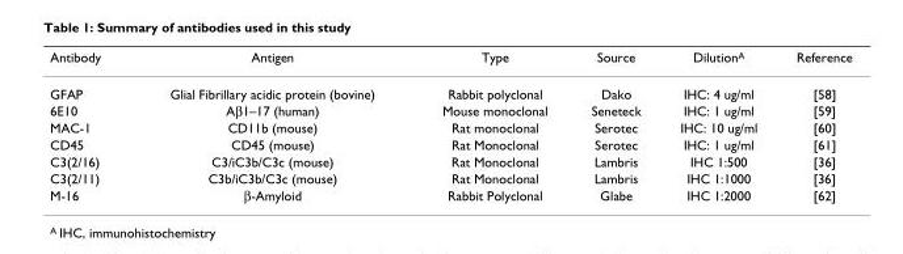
<table><thead><tr><td>Antibody</td><td>Antigen</td><td>Type</td><td>Source</td><td>Dilution<sup>A</sup></td><td>Reference</td></tr></thead><tbody><tr><td>GFAP</td><td>Glial Fibrillary acidic protein (bovine)</td><td>Rabbit polyclonal</td><td>Dako</td><td>IHC: 4 ug/ml</td><td>[58]</td></tr><tr><td>6E10</td><td>Aβ1–17 (human)</td><td>Mouse monoclonal</td><td>Seneteck</td><td>IHC: 1 ug/ml</td><td>[59]</td></tr><tr><td>MAC-1</td><td>CD11b (mouse)</td><td>Rat monoclonal</td><td>Serotec</td><td>IHC: 10 ug/ml</td><td>[60]</td></tr><tr><td>CD45</td><td>CD45 (mouse)</td><td>Rat Monoclonal</td><td>Serotec</td><td>IHC: 1 ug/ml</td><td>[61]</td></tr><tr><td>C3(2/16)</td><td>C3/iC3b/C3c (mouse)</td><td>Rat Monoclonal</td><td>Lambris</td><td>IHC 1:500</td><td>[36]</td></tr><tr><td>C3(2/11)</td><td>C3b/iC3b/C3c (mouse)</td><td>Rat Monoclonal</td><td>Lambris</td><td>IHC 1:1000</td><td>[36]</td></tr><tr><td>M-16</td><td>β-Amyloid</td><td>Rabbit Polyclonal</td><td>Glabe</td><td>IHC 1:2000</td><td>[62]</td></tr></tbody></table>